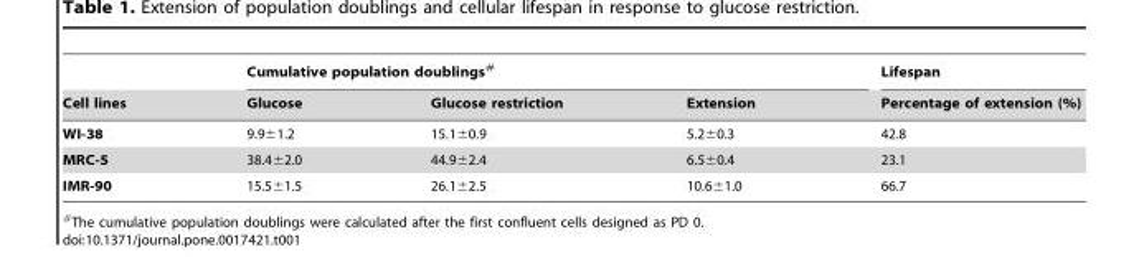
<table><thead><tr><td rowspan="2">Cell lines</td><td colspan="3">Cumulative population doublings#</td><td rowspan="2">Lifespan Percentage of extension (%)</td></tr><tr><td>Glucose</td><td>Glucose restriction</td><td>Extension</td></tr></thead><tbody><tr><td>WI-38</td><td>9.9±1.2</td><td>15.1±0.9</td><td>5.2±0.3</td><td>42.8</td></tr><tr><td>MRC-5</td><td>38.4±2.0</td><td>44.9±2.4</td><td>6.5±0.4</td><td>23.1</td></tr><tr><td>IMR-90</td><td>15.5±1.5</td><td>26.1±2.5</td><td>10.6±1.0</td><td>66.7</td></tr></tbody></table>